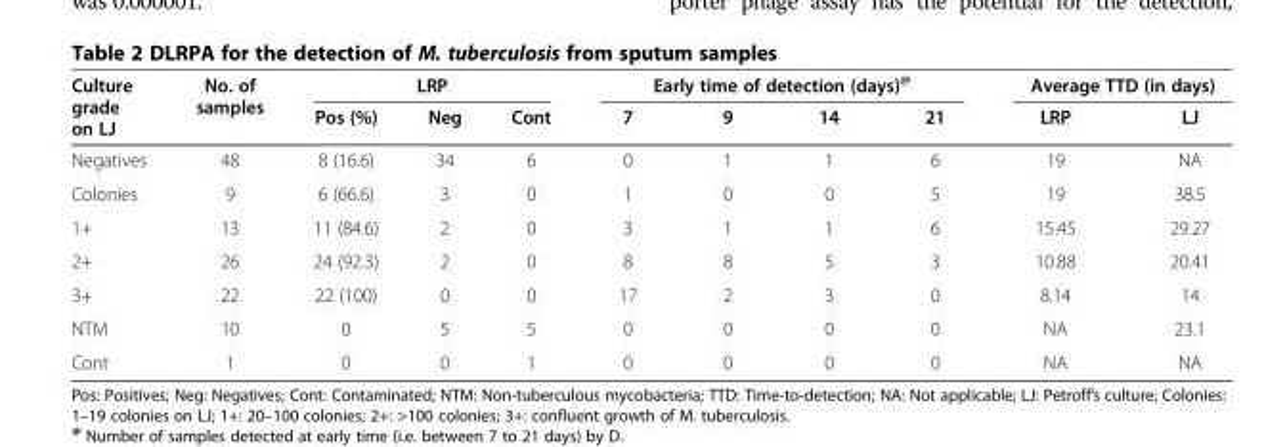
<table><thead><tr><td rowspan="2">Culture grade on LJ</td><td rowspan="2">No. of samples</td><td colspan="3">LRP</td><td colspan="4">Early time of detection (days)<sup>@</sup></td><td colspan="2">Average TTD (in days)</td></tr><tr><td>Pos (%)</td><td>Neg</td><td>Cont</td><td>7</td><td>9</td><td>14</td><td>21</td><td>LRP</td><td>LJ</td></tr></thead><tbody><tr><td>Negatives</td><td>48</td><td>8 (16.6)</td><td>34</td><td>6</td><td>0</td><td>1</td><td>1</td><td>6</td><td>19</td><td>NA</td></tr><tr><td>Colonies</td><td>9</td><td>6 (66.6)</td><td>3</td><td>0</td><td>1</td><td>0</td><td>0</td><td>5</td><td>19</td><td>38.5</td></tr><tr><td>1+</td><td>13</td><td>11 (84.6)</td><td>2</td><td>0</td><td>3</td><td>1</td><td>1</td><td>6</td><td>15.45</td><td>29.27</td></tr><tr><td>2+</td><td>26</td><td>24 (92.3)</td><td>2</td><td>0</td><td>8</td><td>8</td><td>5</td><td>3</td><td>10.88</td><td>20.41</td></tr><tr><td>3+</td><td>22</td><td>22 (100)</td><td>0</td><td>0</td><td>17</td><td>2</td><td>3</td><td>0</td><td>8.14</td><td>14</td></tr><tr><td>NTM</td><td>10</td><td>0</td><td>5</td><td>5</td><td>0</td><td>0</td><td>0</td><td>0</td><td>NA</td><td>23.1</td></tr><tr><td>Cont</td><td>1</td><td>0</td><td>0</td><td>1</td><td>0</td><td>0</td><td>0</td><td>0</td><td>NA</td><td>NA</td></tr></tbody></table>